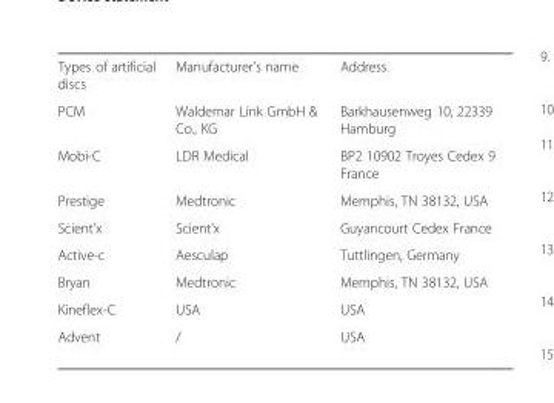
<table><tbody><tr><td>Types of artificial discs</td><td>Manufacturer’s name</td><td>Address</td></tr><tr><td>PCM</td><td>Waldemar Link GmbH &amp; Co., KG</td><td>Barkhausenweg 10, 22339 Hamburg</td></tr><tr><td>Mobi-C</td><td>LDR Medical</td><td>BP2 10902 Troyes Cedex 9 France</td></tr><tr><td>Prestige</td><td>Medtronic</td><td>Memphis, TN 38132, USA</td></tr><tr><td>Scient’x</td><td>Scient’x</td><td>Guyancourt Cedex France</td></tr><tr><td>Active-c</td><td>Aesculap</td><td>Tuttlingen, Germany</td></tr><tr><td>Bryan</td><td>Medtronic</td><td>Memphis, TN 38132, USA</td></tr><tr><td>Kineflex-C</td><td>USA</td><td>USA</td></tr><tr><td>Advent</td><td>/</td><td>USA</td></tr></tbody></table>